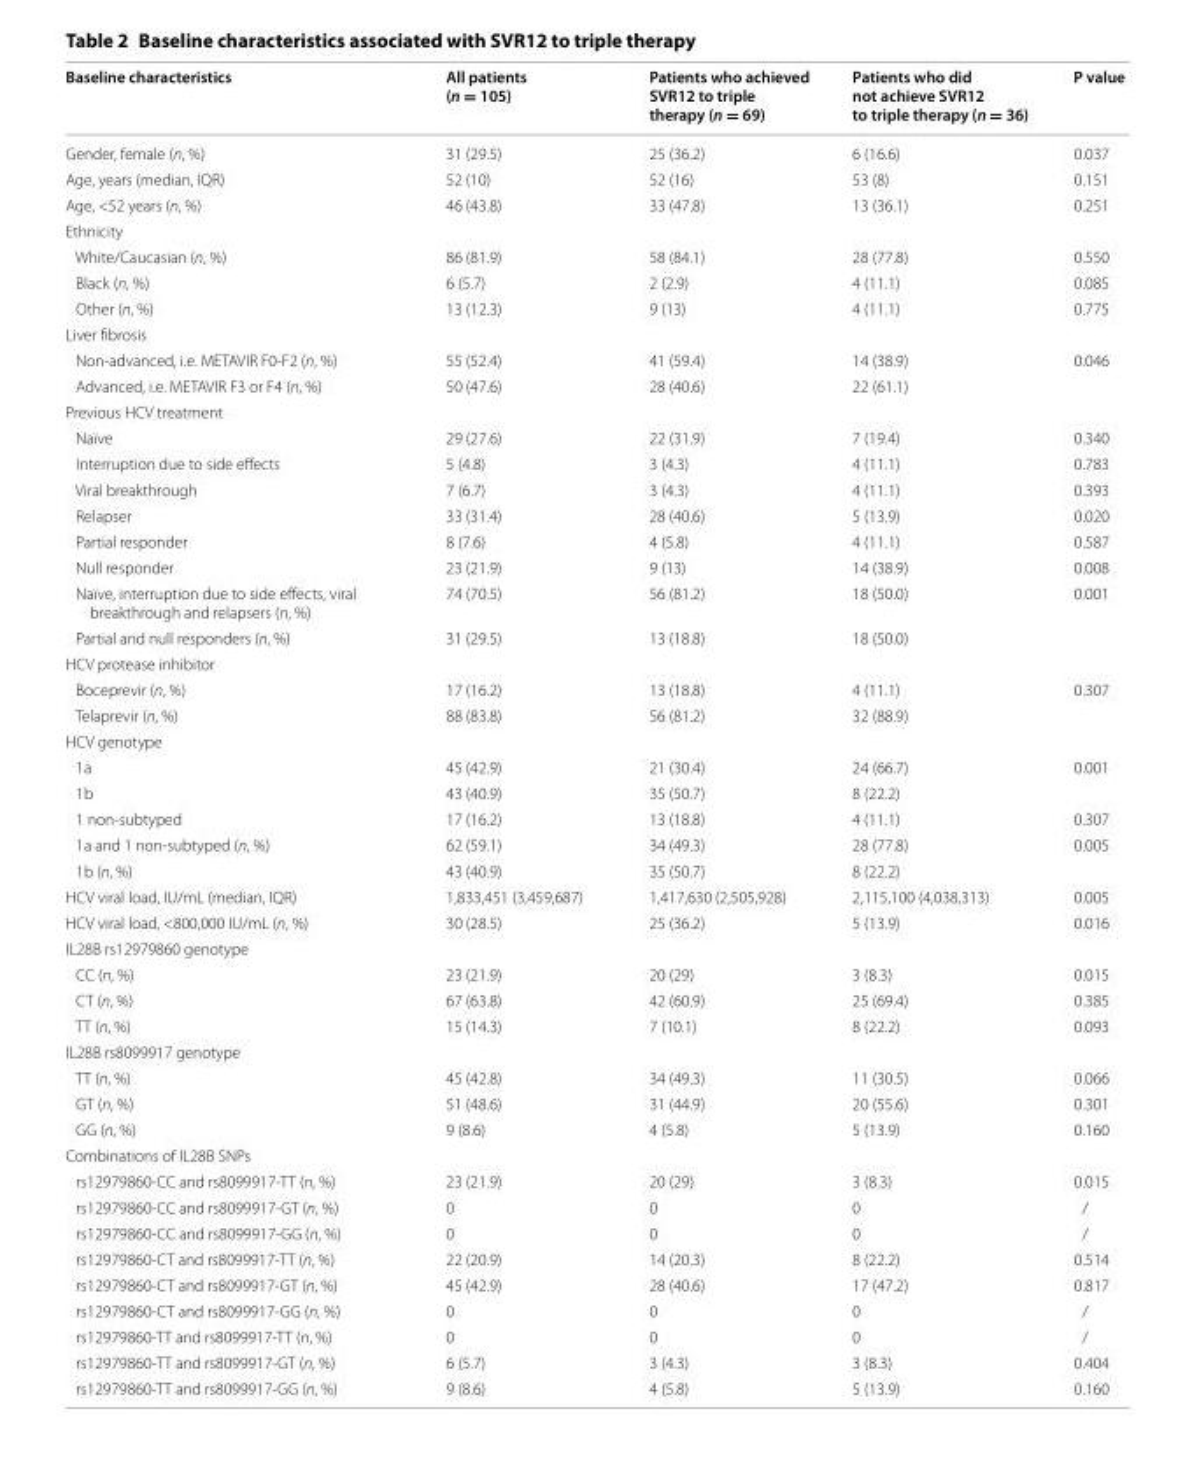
<table><thead><tr><td>Baseline characteristics</td><td>All patients (n = 105)</td><td>Patients who achieved SVR12 to triple therapy (n = 69)</td><td>Patients who did not achieve SVR12 to triple therapy (n = 36)</td><td>P value</td></tr></thead><tbody><tr><td>Gender, female (n, %)</td><td>31 (29.5)</td><td>25 (36.2)</td><td>6 (16.6)</td><td>0.037</td></tr><tr><td>Age, years (median, IQR)</td><td>52 (10)</td><td>52 (16)</td><td>53 (8)</td><td>0.151</td></tr><tr><td>Age, &lt;52 years (n, %)</td><td>46 (43.8)</td><td>33 (47.8)</td><td>13 (36.1)</td><td>0.251</td></tr><tr><td colspan="5">Ethnicity</td></tr><tr><td>White/Caucasian (n, %)</td><td>86 (81.9)</td><td>58 (84.1)</td><td>28 (77.8)</td><td>0.550</td></tr><tr><td>Black (n, %)</td><td>6 (5.7)</td><td>2 (2.9)</td><td>4 (11.1)</td><td>0.085</td></tr><tr><td>Other (n, %)</td><td>13 (12.3)</td><td>9 (13)</td><td>4 (11.1)</td><td>0.775</td></tr><tr><td colspan="5">Liver fibrosis</td></tr><tr><td>Non-advanced, i.e. METAVIR F0-F2 (n, %)</td><td>55 (52.4)</td><td>41 (59.4)</td><td>14 (38.9)</td><td rowspan="2">0.046</td></tr><tr><td>Advanced, i.e. METAVIR F3 or F4 (n, %)</td><td>50 (47.6)</td><td>28 (40.6)</td><td>22 (61.1)</td></tr><tr><td colspan="5">Previous HCV treatment</td></tr><tr><td>Naïve</td><td>29 (27.6)</td><td>22 (31.9)</td><td>7 (19.4)</td><td>0.340</td></tr><tr><td>Interruption due to side effects</td><td>5 (4.8)</td><td>3 (4.3)</td><td>4 (11.1)</td><td>0.783</td></tr><tr><td>Viral breakthrough</td><td>7 (6.7)</td><td>3 (4.3)</td><td>4 (11.1)</td><td>0.393</td></tr><tr><td>Relapser</td><td>33 (31.4)</td><td>28 (40.6)</td><td>5 (13.9)</td><td>0.020</td></tr><tr><td>Partial responder</td><td>8 (7.6)</td><td>4 (5.8)</td><td>4 (11.1)</td><td>0.587</td></tr><tr><td>Null responder</td><td>23 (21.9)</td><td>9 (13)</td><td>14 (38.9)</td><td>0.008</td></tr><tr><td>Naïve, interruption due to side effects, viral breakthrough and relapsers (n, %)</td><td>74 (70.5)</td><td>56 (81.2)</td><td>18 (50.0)</td><td rowspan="2">0.001</td></tr><tr><td>Partial and null responders (n, %)</td><td>31 (29.5)</td><td>13 (18.8)</td><td>18 (50.0)</td></tr><tr><td colspan="5">HCV protease inhibitor</td></tr><tr><td>Boceprevir (n, %)</td><td>17 (16.2)</td><td>13 (18.8)</td><td>4 (11.1)</td><td rowspan="2">0.307</td></tr><tr><td>Telaprevir (n, %)</td><td>88 (83.8)</td><td>56 (81.2)</td><td>32 (88.9)</td></tr><tr><td colspan="5">HCV genotype</td></tr><tr><td>1a</td><td>45 (42.9)</td><td>21 (30.4)</td><td>24 (66.7)</td><td rowspan="2">0.001</td></tr><tr><td>1b</td><td>43 (40.9)</td><td>35 (50.7)</td><td>8 (22.2)</td></tr><tr><td>1 non-subtyped</td><td>17 (16.2)</td><td>13 (18.8)</td><td>4 (11.1)</td><td>0.307</td></tr><tr><td>1a and 1 non-subtyped (n, %)</td><td>62 (59.1)</td><td>34 (49.3)</td><td>28 (77.8)</td><td rowspan="2">0.005</td></tr><tr><td>1b (n, %)</td><td>43 (40.9)</td><td>35 (50.7)</td><td>8 (22.2)</td></tr><tr><td>HCV viral load, IU/mL (median, IQR)</td><td>1,833,451 (3,459,687)</td><td>1,417,630 (2,505,928)</td><td>2,115,100 (4,038,313)</td><td>0.005</td></tr><tr><td>HCV viral load, &lt;800,000 IU/mL (n, %)</td><td>30 (28.5)</td><td>25 (36.2)</td><td>5 (13.9)</td><td>0.016</td></tr><tr><td colspan="5">IL28B rs12979860 genotype</td></tr><tr><td>CC (n, %)</td><td>23 (21.9)</td><td>20 (29)</td><td>3 (8.3)</td><td>0.015</td></tr><tr><td>CT (n, %)</td><td>67 (63.8)</td><td>42 (60.9)</td><td>25 (69.4)</td><td>0.385</td></tr><tr><td>TT (n, %)</td><td>15 (14.3)</td><td>7 (10.1)</td><td>8 (22.2)</td><td>0.093</td></tr><tr><td colspan="5">IL28B rs8099917 genotype</td></tr><tr><td>TT (n, %)</td><td>45 (42.8)</td><td>34 (49.3)</td><td>11 (30.5)</td><td>0.066</td></tr><tr><td>GT (n, %)</td><td>51 (48.6)</td><td>31 (44.9)</td><td>20 (55.6)</td><td>0.301</td></tr><tr><td>GG (n, %)</td><td>9 (8.6)</td><td>4 (5.8)</td><td>5 (13.9)</td><td>0.160</td></tr><tr><td colspan="5">Combinations of IL28B SNPs</td></tr><tr><td>rs12979860-CC and rs8099917-TT (n, %)</td><td>23 (21.9)</td><td>20 (29)</td><td>3 (8.3)</td><td>0.015</td></tr><tr><td>rs12979860-CC and rs8099917-GT (n, %)</td><td>0</td><td>0</td><td>0</td><td>/</td></tr><tr><td>rs12979860-CC and rs8099917-GG (n, %)</td><td>0</td><td>0</td><td>0</td><td>/</td></tr><tr><td>rs12979860-CT and rs8099917-TT (n, %)</td><td>22 (20.9)</td><td>14 (20.3)</td><td>8 (22.2)</td><td>0.514</td></tr><tr><td>rs12979860-CT and rs8099917-GT (n, %)</td><td>45 (42.9)</td><td>28 (40.6)</td><td>17 (47.2)</td><td>0.817</td></tr><tr><td>rs12979860-CT and rs8099917-GG (n, %)</td><td>0</td><td>0</td><td>0</td><td>/</td></tr><tr><td>rs12979860-TT and rs8099917-TT (n, %)</td><td>0</td><td>0</td><td>0</td><td>/</td></tr><tr><td>rs12979860-TT and rs8099917-GT (n, %)</td><td>6 (5.7)</td><td>3 (4.3)</td><td>3 (8.3)</td><td>0.404</td></tr><tr><td>rs12979860-TT and rs8099917-GG (n, %)</td><td>9 (8.6)</td><td>4 (5.8)</td><td>5 (13.9)</td><td>0.160</td></tr></tbody></table>